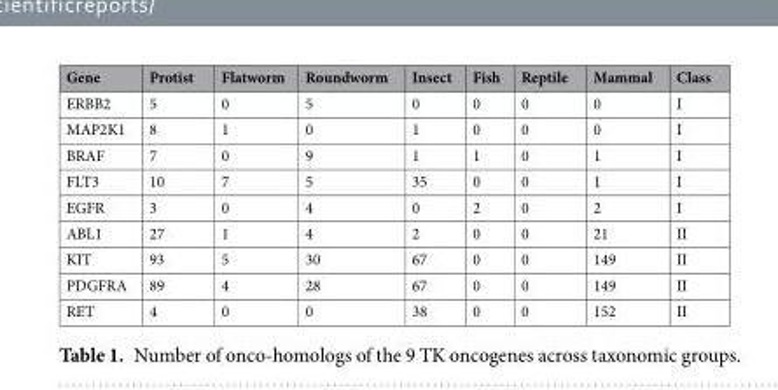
<table><thead><tr><td>Gene</td><td>Protist</td><td>Flatworm</td><td>Roundworm</td><td>Insect</td><td>Fish</td><td>Reptile</td><td>Mammal</td><td>Class</td></tr></thead><tbody><tr><td>ERBB2</td><td>5</td><td>0</td><td>5</td><td>0</td><td>0</td><td>0</td><td>0</td><td>I</td></tr><tr><td>MAP2K1</td><td>8</td><td>1</td><td>0</td><td>1</td><td>0</td><td>0</td><td>0</td><td>I</td></tr><tr><td>BRAF</td><td>7</td><td>0</td><td>9</td><td>1</td><td>1</td><td>0</td><td>1</td><td>I</td></tr><tr><td>FLT3</td><td>10</td><td>7</td><td>5</td><td>35</td><td>0</td><td>0</td><td>1</td><td>I</td></tr><tr><td>EGFR</td><td>3</td><td>0</td><td>4</td><td>0</td><td>2</td><td>0</td><td>2</td><td>I</td></tr><tr><td>ABL1</td><td>27</td><td>1</td><td>4</td><td>2</td><td>0</td><td>0</td><td>21</td><td>II</td></tr><tr><td>KIT</td><td>93</td><td>5</td><td>30</td><td>67</td><td>0</td><td>0</td><td>149</td><td>II</td></tr><tr><td>PDGFRA</td><td>89</td><td>4</td><td>28</td><td>67</td><td>0</td><td>0</td><td>149</td><td>II</td></tr><tr><td>RET</td><td>4</td><td>0</td><td>0</td><td>38</td><td>0</td><td>0</td><td>152</td><td>II</td></tr></tbody></table>